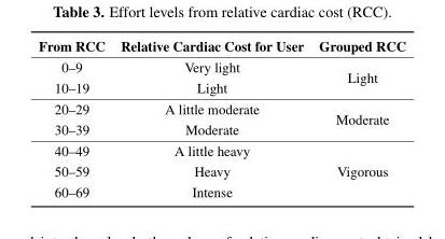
<table><thead><tr><td>From RCC</td><td>Relative Cardiac Cost for User</td><td>Grouped RCC</td></tr></thead><tbody><tr><td>0–9</td><td>Very light</td><td rowspan="2">Light</td></tr><tr><td>10–19</td><td>Light</td></tr><tr><td>20–29</td><td>A little moderate</td><td rowspan="2">Moderate</td></tr><tr><td>30–39</td><td>Moderate</td></tr><tr><td>40–49</td><td>A little heavy</td><td rowspan="3">Vigorous</td></tr><tr><td>50–59</td><td>Heavy</td></tr><tr><td>60–69</td><td>Intense</td></tr></tbody></table>